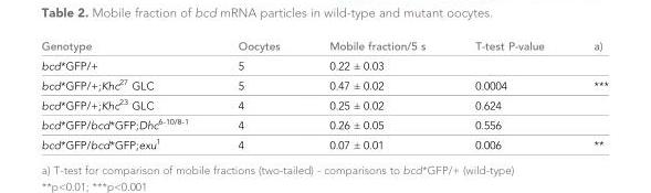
<table><thead><tr><td>Genotype</td><td>Oocytes</td><td>Mobile fraction/5 s</td><td>T-test P-value</td><td>a)</td></tr></thead><tbody><tr><td>bcd*GFP/+</td><td>5</td><td>0.22 ± 0.03</td><td></td><td></td></tr><tr><td>bcd*GFP/+;Khc<sup>27</sup> GLC</td><td>5</td><td>0.47 ± 0.02</td><td>0.0004</td><td>***</td></tr><tr><td>bcd*GFP/+;Khc<sup>23</sup> GLC</td><td>4</td><td>0.25 ± 0.02</td><td>0.624</td><td></td></tr><tr><td>bcd*GFP/bcd*GFP;Dhc<sup>6-10/8-1</sup></td><td>4</td><td>0.26 ± 0.05</td><td>0.556</td><td></td></tr><tr><td>bcd*GFP/bcd*GFP;exu<sup>1</sup></td><td>4</td><td>0.07 ± 0.01</td><td>0.006</td><td>**</td></tr></tbody></table>